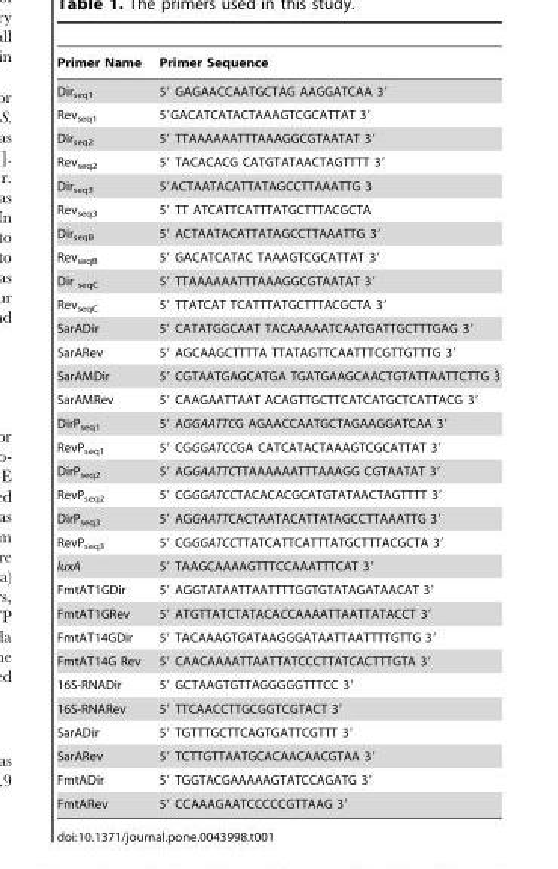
<table><thead><tr><td>Primer Name</td><td>Primer Sequence</td></tr></thead><tbody><tr><td>Dir<sub>seq1</sub></td><td>5′ GAGAACCAATGCTAG AAGGATCAA 3′</td></tr><tr><td>Rev<sub>seq1</sub></td><td>5′GACATCATACTAAAGTCGCATTAT 3′</td></tr><tr><td>Dir<sub>seq2</sub></td><td>5′ TTAAAAAATTTAAAGGCGTAATAT 3′</td></tr><tr><td>Rev<sub>seq2</sub></td><td>5′ TACACACG CATGTATAACTAGTTTT 3′</td></tr><tr><td>Dir<sub>seq3</sub></td><td>5′ACTAATACATTATAGCCTTAAATTG 3</td></tr><tr><td>Rev<sub>seq3</sub></td><td>5′ TT ATCATTCATTTATGCTTTACGCTA</td></tr><tr><td>Dir<sub>seqB</sub></td><td>5′ ACTAATACATTATAGCCTTAAATTG 3′</td></tr><tr><td>Rev<sub>seqB</sub></td><td>5′ GACATCATAC TAAAGTCGCATTAT 3′</td></tr><tr><td>Dir <sub>seqC</sub></td><td>5′ TTAAAAAATTTAAAGGCGTAATAT 3′</td></tr><tr><td>Rev<sub>seqC</sub></td><td>5′ TTATCAT TCATTTATGCTTTACGCTA 3′</td></tr><tr><td>SarADir</td><td>5′ CATATGGCAAT TACAAAAATCAATGATTGCTTTGAG 3′</td></tr><tr><td>SarARev</td><td>5′ AGCAAGCTTTTA TTATAGTTCAATTTCGTTGTTTG 3′</td></tr><tr><td>SarAMDir</td><td>5′ CGTAATGAGCATGA TGATGAAGCAACTGTATTAATTCTTG 3`</td></tr><tr><td>SarAMRev</td><td>5′ CAAGAATTAAT ACAGTTGCTTCATCATGCTCATTACG 3′</td></tr><tr><td>DirP<sub>seq1</sub></td><td>5′ AGGAATTCG AGAACCAATGCTAGAAGGATCAA 3′</td></tr><tr><td>RevP<sub>seq1</sub></td><td>5′ CGGGATCCGA CATCATACTAAAGTCGCATTAT 3′</td></tr><tr><td>DirP<sub>seq2</sub></td><td>5′ AGGAATTCTTAAAAAATTTAAAGG CGTAATAT 3′</td></tr><tr><td>RevP<sub>seq2</sub></td><td>5′ CGGGATCCTACACACGCATGTATAACTAGTTTT 3′</td></tr><tr><td>DirP<sub>seq3</sub></td><td>5′ AGGAATTCACTAATACATTATAGCCTTAAATTG 3′</td></tr><tr><td>RevP<sub>seq3</sub></td><td>5′ CGGGATCCTTATCATTCATTTATGCTTTACGCTA 3′</td></tr><tr><td>luxA</td><td>5′ TAAGCAAAAGTTTCCAAATTTCAT 3′</td></tr><tr><td>FmtAT1GDir</td><td>5′ AGGTATAATTAATTTTGGTGTATAGATAACAT 3′</td></tr><tr><td>FmtAT1GRev</td><td>5′ ATGTTATCTATACACCAAAATTAATTATACCT 3′</td></tr><tr><td>FmtAT14GDir</td><td>5′ TACAAAGTGATAAGGGATAATTAATTTTGTTG 3′</td></tr><tr><td>FmtAT14G Rev</td><td>5′ CAACAAAATTAATTATCCCTTATCACTTTGTA 3′</td></tr><tr><td>16S-RNADir</td><td>5′ GCTAAGTGTTAGGGGGTTTCC 3′</td></tr><tr><td>16S-RNARev</td><td>5′ TTCAACCTTGCGGTCGTACT 3′</td></tr><tr><td>SarADir</td><td>5′ TGTTTGCTTCAGTGATTCGTTT 3′</td></tr><tr><td>SarARev</td><td>5′ TCTTGTTAATGCACAACAACGTAA 3′</td></tr><tr><td>FmtADir</td><td>5′ TGGTACGAAAAAGTATCCAGATG 3′</td></tr><tr><td>FmtARev</td><td>5′ CCAAAGAATCCCCCGTTAAG 3′</td></tr></tbody></table>